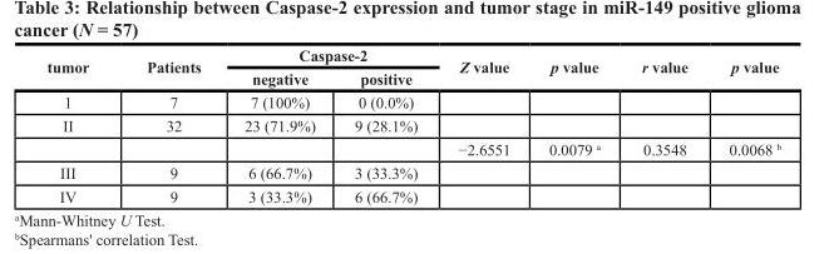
<table><thead><tr><td rowspan="2">tumor</td><td rowspan="2">Patients</td><td colspan="2">Caspase-2</td><td rowspan="2">Z value</td><td rowspan="2">p value</td><td rowspan="2">r value</td><td rowspan="2">p value</td></tr><tr><td>negative</td><td>positive</td></tr></thead><tbody><tr><td>1</td><td>7</td><td>7 (100%)</td><td>0 (0.0%)</td><td></td><td></td><td></td><td></td></tr><tr><td rowspan="2">II</td><td>32</td><td>23 (71.9%)</td><td>9 (28.1%)</td><td></td><td></td><td></td><td></td></tr><tr><td></td><td></td><td></td><td>−2.6551</td><td>0.0079 <sup>a</sup></td><td>0.3548</td><td>0.0068 <sup>b</sup></td></tr><tr><td>III</td><td>9</td><td>6 (66.7%)</td><td>3 (33.3%)</td><td></td><td></td><td></td><td></td></tr><tr><td>IV</td><td>9</td><td>3 (33.3%)</td><td>6 (66.7%)</td><td></td><td></td><td></td><td></td></tr></tbody></table>